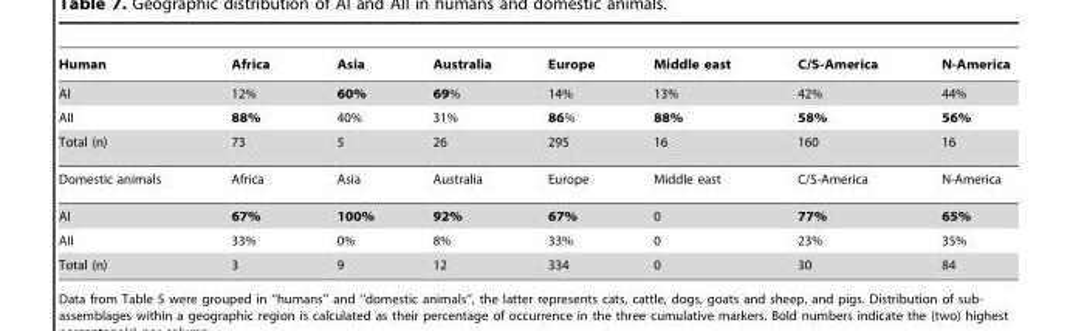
<table><thead><tr><td>Human</td><td>Africa</td><td>Asia</td><td>Australia</td><td>Europe</td><td>Middle east</td><td>C/S-America</td><td>N-America</td></tr></thead><tbody><tr><td>AI</td><td>12%</td><td>60%</td><td>69%</td><td>14%</td><td>13%</td><td>42%</td><td>44%</td></tr><tr><td>AII</td><td>88%</td><td>40%</td><td>31%</td><td>86%</td><td>88%</td><td>58%</td><td>56%</td></tr><tr><td>Total (n)</td><td>73</td><td>5</td><td>26</td><td>295</td><td>16</td><td>160</td><td>16</td></tr><tr><td>Domestic animals</td><td>Africa</td><td>Asia</td><td>Australia</td><td>Europe</td><td>Middle east</td><td>C/S-America</td><td>N-America</td></tr><tr><td>AI</td><td>67%</td><td>100%</td><td>92%</td><td>67%</td><td>0</td><td>77%</td><td>65%</td></tr><tr><td>AII</td><td>33%</td><td>0%</td><td>8%</td><td>33%</td><td>0</td><td>23%</td><td>35%</td></tr><tr><td>Total (n)</td><td>3</td><td>9</td><td>12</td><td>334</td><td>0</td><td>30</td><td>84</td></tr></tbody></table>